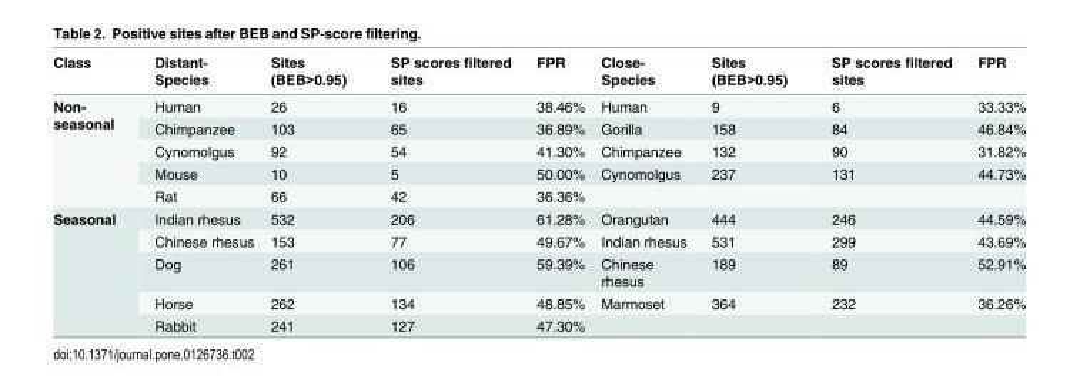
<table><thead><tr><td>Class</td><td>Distant- Species</td><td>Sites (BEB&gt;0.95)</td><td>SP scores filtered sites</td><td>FPR</td><td>Close- Species</td><td>Sites (BEB&gt;0.95)</td><td>SP scores filtered sites</td><td>FPR</td></tr></thead><tbody><tr><td rowspan="5">Non- seasonal</td><td>Human</td><td>26</td><td>16</td><td>38.46%</td><td>Human</td><td>9</td><td>6</td><td>33.33%</td></tr><tr><td>Chimpanzee</td><td>103</td><td>65</td><td>36.89%</td><td>Gorilla</td><td>158</td><td>84</td><td>46.84%</td></tr><tr><td>Cynomolgus</td><td>92</td><td>54</td><td>41.30%</td><td>Chimpanzee</td><td>132</td><td>90</td><td>31.82%</td></tr><tr><td>Mouse</td><td>10</td><td>5</td><td>50.00%</td><td>Cynomolgus</td><td>237</td><td>131</td><td>44.73%</td></tr><tr><td>Rat</td><td>66</td><td>42</td><td>36.36%</td><td></td><td></td><td></td><td></td></tr><tr><td rowspan="5">Seasonal</td><td>Indian rhesus</td><td>532</td><td>206</td><td>61.28%</td><td>Orangutan</td><td>444</td><td>246</td><td>44.59%</td></tr><tr><td>Chinese rhesus</td><td>153</td><td>77</td><td>49.67%</td><td>Indian rhesus</td><td>531</td><td>299</td><td>43.69%</td></tr><tr><td>Dog</td><td>261</td><td>106</td><td>59.39%</td><td>Chinese rhesus</td><td>189</td><td>89</td><td>52.91%</td></tr><tr><td>Horse</td><td>262</td><td>134</td><td>48.85%</td><td>Marmoset</td><td>364</td><td>232</td><td>36.26%</td></tr><tr><td>Rabbit</td><td>241</td><td>127</td><td>47.30%</td><td></td><td></td><td></td><td></td></tr></tbody></table>